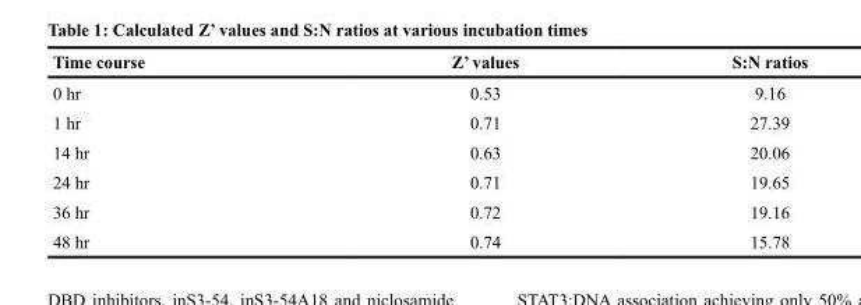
<table><thead><tr><td>Time course</td><td>Z’ values</td><td>S:N ratios</td></tr></thead><tbody><tr><td>0 hr</td><td>0.53</td><td>9.16</td></tr><tr><td>1 hr</td><td>0.71</td><td>27.39</td></tr><tr><td>14 hr</td><td>0.63</td><td>20.06</td></tr><tr><td>24 hr</td><td>0.71</td><td>19.65</td></tr><tr><td>36 hr</td><td>0.72</td><td>19.16</td></tr><tr><td>48 hr</td><td>0.74</td><td>15.78</td></tr></tbody></table>